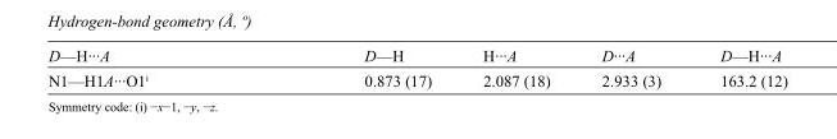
<table><tbody><tr><td>D—H···A</td><td>D—H</td><td>H···A</td><td>D···A</td><td>D—H···A</td></tr><tr><td>N1—H1A···O1<sup>i</sup></td><td>0.873 (17)</td><td>2.087 (18)</td><td>2.933 (3)</td><td>163.2 (12)</td></tr></tbody></table>